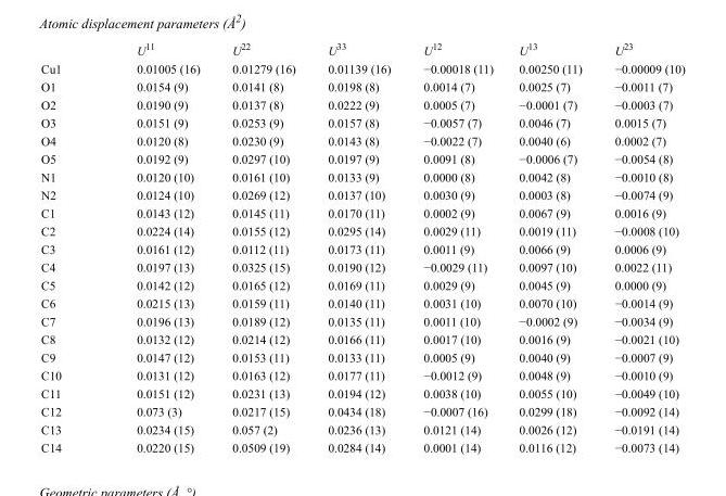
<table><thead><tr><td></td><td>U<sup>11</sup></td><td>U<sup>22</sup></td><td>U<sup>33</sup></td><td>U<sup>12</sup></td><td>U<sup>13</sup></td><td>U<sup>23</sup></td></tr></thead><tbody><tr><td>Cu1</td><td>0.01005 (16)</td><td>0.01279 (16)</td><td>0.01139 (16)</td><td>−0.00018 (11)</td><td>0.00250 (11)</td><td>−0.00009 (10)</td></tr><tr><td>O1</td><td>0.0154 (9)</td><td>0.0141 (8)</td><td>0.0198 (8)</td><td>0.0014 (7)</td><td>0.0025 (7)</td><td>−0.0011 (7)</td></tr><tr><td>O2</td><td>0.0190 (9)</td><td>0.0137 (8)</td><td>0.0222 (9)</td><td>0.0005 (7)</td><td>−0.0001 (7)</td><td>−0.0003 (7)</td></tr><tr><td>O3</td><td>0.0151 (9)</td><td>0.0253 (9)</td><td>0.0157 (8)</td><td>−0.0057 (7)</td><td>0.0046 (7)</td><td>0.0015 (7)</td></tr><tr><td>O4</td><td>0.0120 (8)</td><td>0.0230 (9)</td><td>0.0143 (8)</td><td>−0.0022 (7)</td><td>0.0040 (6)</td><td>0.0002 (7)</td></tr><tr><td>O5</td><td>0.0192 (9)</td><td>0.0297 (10)</td><td>0.0197 (9)</td><td>0.0091 (8)</td><td>−0.0006 (7)</td><td>−0.0054 (8)</td></tr><tr><td>N1</td><td>0.0120 (10)</td><td>0.0161 (10)</td><td>0.0133 (9)</td><td>0.0000 (8)</td><td>0.0042 (8)</td><td>−0.0010 (8)</td></tr><tr><td>N2</td><td>0.0124 (10)</td><td>0.0269 (12)</td><td>0.0137 (10)</td><td>0.0030 (9)</td><td>0.0003 (8)</td><td>−0.0074 (9)</td></tr><tr><td>C1</td><td>0.0143 (12)</td><td>0.0145 (11)</td><td>0.0170 (11)</td><td>0.0002 (9)</td><td>0.0067 (9)</td><td>0.0016 (9)</td></tr><tr><td>C2</td><td>0.0224 (14)</td><td>0.0155 (12)</td><td>0.0295 (14)</td><td>0.0029 (11)</td><td>0.0019 (11)</td><td>−0.0008 (10)</td></tr><tr><td>C3</td><td>0.0161 (12)</td><td>0.0112 (11)</td><td>0.0173 (11)</td><td>0.0011 (9)</td><td>0.0066 (9)</td><td>0.0006 (9)</td></tr><tr><td>C4</td><td>0.0197 (13)</td><td>0.0325 (15)</td><td>0.0190 (12)</td><td>−0.0029 (11)</td><td>0.0097 (10)</td><td>0.0022 (11)</td></tr><tr><td>C5</td><td>0.0142 (12)</td><td>0.0165 (12)</td><td>0.0169 (11)</td><td>0.0029 (9)</td><td>0.0045 (9)</td><td>0.0000 (9)</td></tr><tr><td>C6</td><td>0.0215 (13)</td><td>0.0159 (11)</td><td>0.0140 (11)</td><td>0.0031 (10)</td><td>0.0070 (10)</td><td>−0.0014 (9)</td></tr><tr><td>C7</td><td>0.0196 (13)</td><td>0.0189 (12)</td><td>0.0135 (11)</td><td>0.0011 (10)</td><td>−0.0002 (9)</td><td>−0.0034 (9)</td></tr><tr><td>C8</td><td>0.0132 (12)</td><td>0.0214 (12)</td><td>0.0166 (11)</td><td>0.0017 (10)</td><td>0.0016 (9)</td><td>−0.0021 (10)</td></tr><tr><td>C9</td><td>0.0147 (12)</td><td>0.0153 (11)</td><td>0.0133 (11)</td><td>0.0005 (9)</td><td>0.0040 (9)</td><td>−0.0007 (9)</td></tr><tr><td>C10</td><td>0.0131 (12)</td><td>0.0163 (12)</td><td>0.0177 (11)</td><td>−0.0012 (9)</td><td>0.0048 (9)</td><td>−0.0010 (9)</td></tr><tr><td>C11</td><td>0.0151 (12)</td><td>0.0231 (13)</td><td>0.0194 (12)</td><td>0.0038 (10)</td><td>0.0055 (10)</td><td>−0.0049 (10)</td></tr><tr><td>C12</td><td>0.073 (3)</td><td>0.0217 (15)</td><td>0.0434 (18)</td><td>−0.0007 (16)</td><td>0.0299 (18)</td><td>−0.0092 (14)</td></tr><tr><td>C13</td><td>0.0234 (15)</td><td>0.057 (2)</td><td>0.0236 (13)</td><td>0.0121 (14)</td><td>0.0026 (12)</td><td>−0.0191 (14)</td></tr><tr><td>C14</td><td>0.0220 (15)</td><td>0.0509 (19)</td><td>0.0284 (14)</td><td>0.0001 (14)</td><td>0.0116 (12)</td><td>−0.0073 (14)</td></tr></tbody></table>